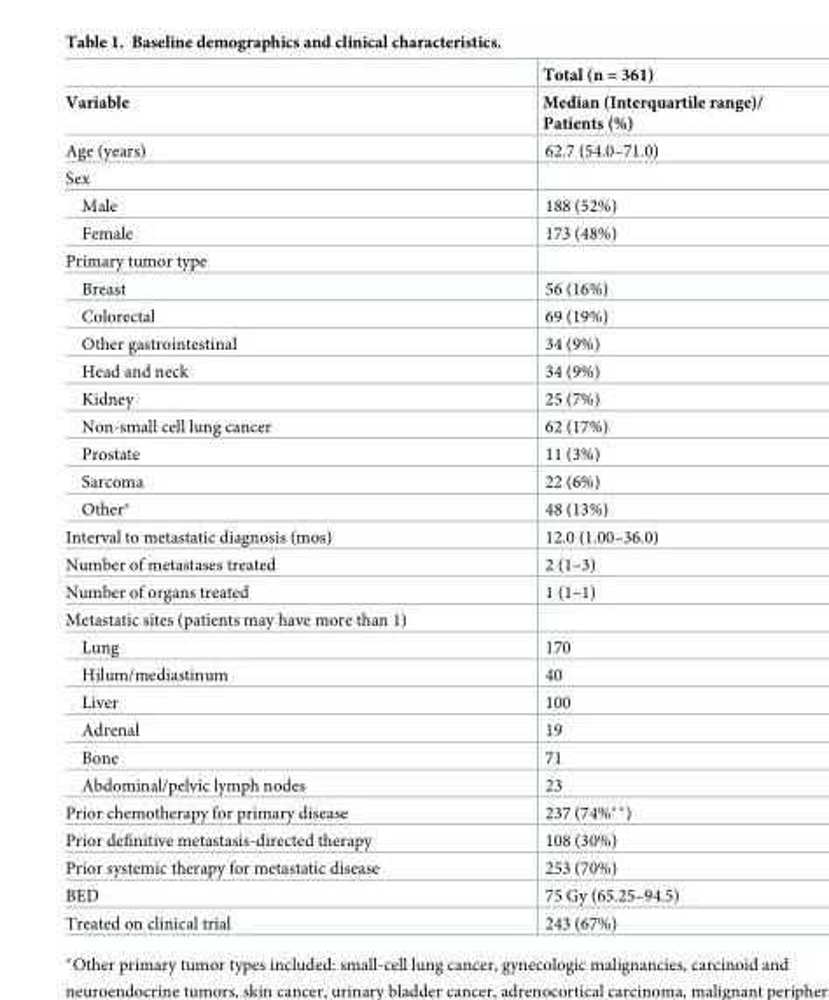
<table><thead><tr><td rowspan="2">Variable</td><td rowspan="2">Total (n = 361) Median (Interquartile range)/ Patients (%)</td></tr><tr></tr></thead><tbody><tr><td>Age (years)</td><td>62.7 (54.0–71.0)</td></tr><tr><td colspan="2">Sex</td></tr><tr><td>Male</td><td>188 (52%)</td></tr><tr><td>Female</td><td>173 (48%)</td></tr><tr><td colspan="2">Primary tumor type</td></tr><tr><td>Breast</td><td>56 (16%)</td></tr><tr><td>Colorectal</td><td>69 (19%)</td></tr><tr><td>Other gastrointestinal</td><td>34 (9%)</td></tr><tr><td>Head and neck</td><td>34 (9%)</td></tr><tr><td>Kidney</td><td>25 (7%)</td></tr><tr><td>Non-small cell lung cancer</td><td>62 (17%)</td></tr><tr><td>Prostate</td><td>11 (3%)</td></tr><tr><td>Sarcoma</td><td>22 (6%)</td></tr><tr><td>Other*</td><td>48 (13%)</td></tr><tr><td>Interval to metastatic diagnosis (mos)</td><td>12.0 (1.00–36.0)</td></tr><tr><td>Number of metastases treated</td><td>2 (1–3)</td></tr><tr><td>Number of organs treated</td><td>1 (1–1)</td></tr><tr><td colspan="2">Metastatic sites (patients may have more than 1)</td></tr><tr><td>Lung</td><td>170</td></tr><tr><td>Hilum/mediastinum</td><td>40</td></tr><tr><td>Liver</td><td>100</td></tr><tr><td>Adrenal</td><td>19</td></tr><tr><td>Bone</td><td>71</td></tr><tr><td>Abdominal/pelvic lymph nodes</td><td>23</td></tr><tr><td>Prior chemotherapy for primary disease</td><td>237 (74%**)</td></tr><tr><td>Prior definitive metastasis-directed therapy</td><td>108 (30%)</td></tr><tr><td>Prior systemic therapy for metastatic disease</td><td>253 (70%)</td></tr><tr><td>BED</td><td>75 Gy (65.25–94.5)</td></tr><tr><td>Treated on clinical trial</td><td>243 (67%)</td></tr></tbody></table>